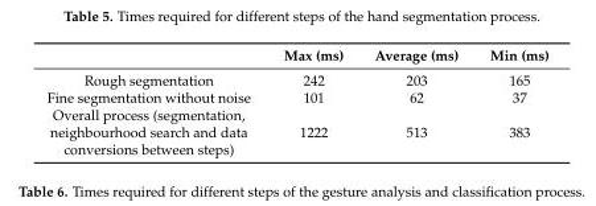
<table><thead><tr><td></td><td>Max (ms)</td><td>Average (ms)</td><td>Min (ms)</td></tr></thead><tbody><tr><td>Rough segmentation</td><td>242</td><td>203</td><td>165</td></tr><tr><td>Fine segmentation without noise</td><td>101</td><td>62</td><td>37</td></tr><tr><td>Overall process (segmentation, neighbourhood search and data conversions between steps)</td><td>1222</td><td>513</td><td>383</td></tr></tbody></table>